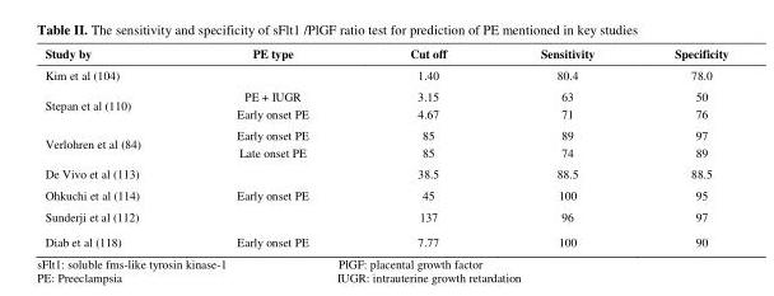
<table><thead><tr><td>Study by</td><td>PE type</td><td>Cut off</td><td>Sensitivity</td><td>Specificity</td></tr></thead><tbody><tr><td>Kim et al (104)</td><td></td><td>1.40</td><td>80.4</td><td>78.0</td></tr><tr><td>Stepan et al (110)</td><td>PE + IUGR Early onset PE</td><td>3.15 4.67</td><td>63 71</td><td>50 76</td></tr><tr><td>Verlohren et al (84)</td><td>Early onset PE Late onset PE</td><td>85 85</td><td>89 74</td><td>97 89</td></tr><tr><td>De Vivo et al (113)</td><td></td><td>38.5</td><td>88.5</td><td>88.5</td></tr><tr><td>Ohkuchi et al (114)</td><td>Early onset PE</td><td>45</td><td>100</td><td>95</td></tr><tr><td>Sunderji et al (112)</td><td></td><td>137</td><td>96</td><td>97</td></tr><tr><td>Diab et al (118)</td><td>Early onset PE</td><td>7.77</td><td>100</td><td>90</td></tr></tbody></table>